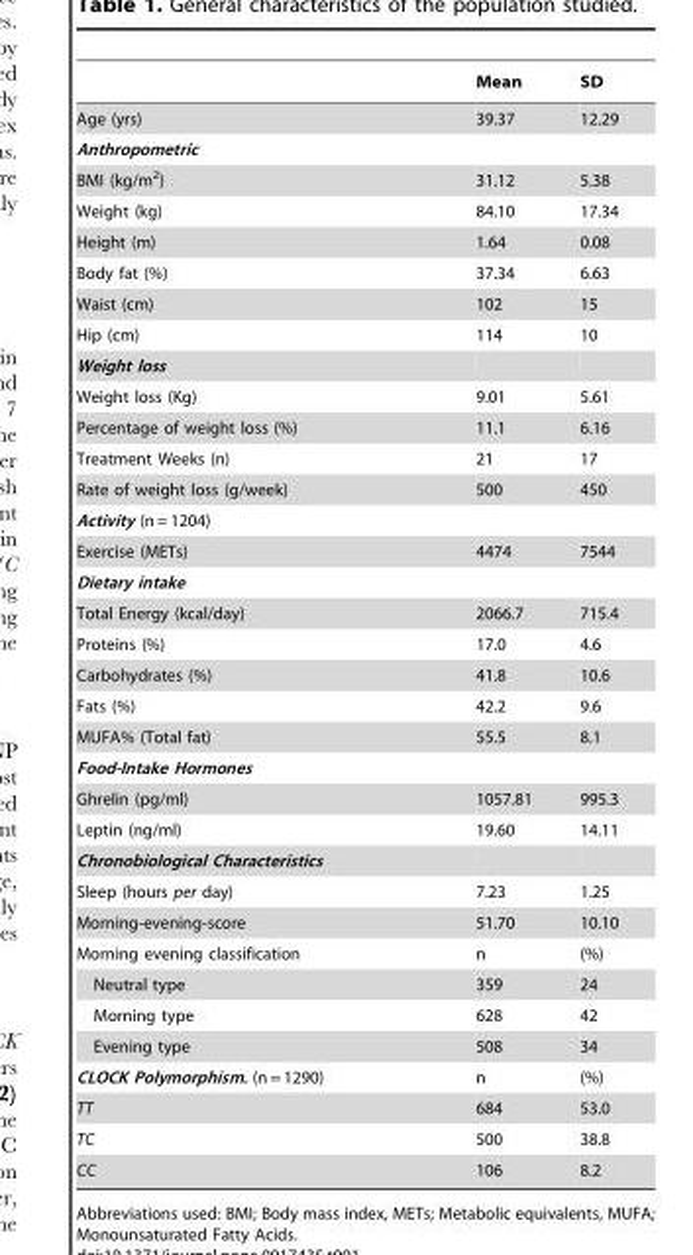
<table><thead><tr><td></td><td>Mean</td><td>SD</td></tr></thead><tbody><tr><td>Age (yrs)</td><td>39.37</td><td>12.29</td></tr><tr><td colspan="3">Anthropometric</td></tr><tr><td>BMI (kg/m<sup>2</sup>)</td><td>31.12</td><td>5.38</td></tr><tr><td>Weight (kg)</td><td>84.10</td><td>17.34</td></tr><tr><td>Height (m)</td><td>1.64</td><td>0.08</td></tr><tr><td>Body fat (%)</td><td>37.34</td><td>6.63</td></tr><tr><td>Waist (cm)</td><td>102</td><td>15</td></tr><tr><td>Hip (cm)</td><td>114</td><td>10</td></tr><tr><td colspan="3">Weight loss</td></tr><tr><td>Weight loss (Kg)</td><td>9.01</td><td>5.61</td></tr><tr><td>Percentage of weight loss (%)</td><td>11.1</td><td>6.16</td></tr><tr><td>Treatment Weeks (n)</td><td>21</td><td>17</td></tr><tr><td>Rate of weight loss (g/week)</td><td>500</td><td>450</td></tr><tr><td colspan="3">Activity (n = 1204)</td></tr><tr><td>Exercise (METs)</td><td>4474</td><td>7544</td></tr><tr><td colspan="3">Dietary intake</td></tr><tr><td>Total Energy (kcal/day)</td><td>2066.7</td><td>715.4</td></tr><tr><td>Proteins (%)</td><td>17.0</td><td>4.6</td></tr><tr><td>Carbohydrates (%)</td><td>41.8</td><td>10.6</td></tr><tr><td>Fats (%)</td><td>42.2</td><td>9.6</td></tr><tr><td>MUFA% (Total fat)</td><td>55.5</td><td>8.1</td></tr><tr><td colspan="3">Food-Intake Hormones</td></tr><tr><td>Ghrelin (pg/ml)</td><td>1057.81</td><td>995.3</td></tr><tr><td>Leptin (ng/ml)</td><td>19.60</td><td>14.11</td></tr><tr><td colspan="3">Chronobiological Characteristics</td></tr><tr><td>Sleep (hours per day)</td><td>7.23</td><td>1.25</td></tr><tr><td>Morning-evening-score</td><td>51.70</td><td>10.10</td></tr><tr><td>Morning evening classification</td><td>n</td><td>(%)</td></tr><tr><td>Neutral type</td><td>359</td><td>24</td></tr><tr><td>Morning type</td><td>628</td><td>42</td></tr><tr><td>Evening type</td><td>508</td><td>34</td></tr><tr><td>CLOCK Polymorphism. (n = 1290)</td><td>n</td><td>(%)</td></tr><tr><td>TT</td><td>684</td><td>53.0</td></tr><tr><td>TC</td><td>500</td><td>38.8</td></tr><tr><td>CC</td><td>106</td><td>8.2</td></tr></tbody></table>